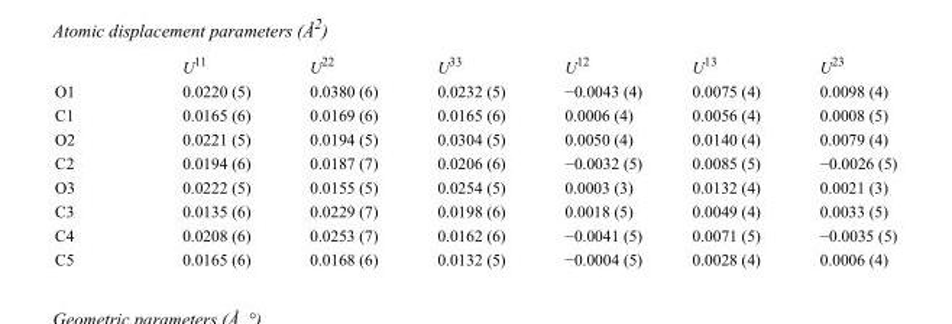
<table><thead><tr><td></td><td>U<sup>11</sup></td><td>U<sup>22</sup></td><td>U<sup>33</sup></td><td>U<sup>12</sup></td><td>U<sup>13</sup></td><td>U<sup>23</sup></td></tr></thead><tbody><tr><td>O1</td><td>0.0220 (5)</td><td>0.0380 (6)</td><td>0.0232 (5)</td><td>−0.0043 (4)</td><td>0.0075 (4)</td><td>0.0098 (4)</td></tr><tr><td>C1</td><td>0.0165 (6)</td><td>0.0169 (6)</td><td>0.0165 (6)</td><td>0.0006 (4)</td><td>0.0056 (4)</td><td>0.0008 (5)</td></tr><tr><td>O2</td><td>0.0221 (5)</td><td>0.0194 (5)</td><td>0.0304 (5)</td><td>0.0050 (4)</td><td>0.0140 (4)</td><td>0.0079 (4)</td></tr><tr><td>C2</td><td>0.0194 (6)</td><td>0.0187 (7)</td><td>0.0206 (6)</td><td>−0.0032 (5)</td><td>0.0085 (5)</td><td>−0.0026 (5)</td></tr><tr><td>O3</td><td>0.0222 (5)</td><td>0.0155 (5)</td><td>0.0254 (5)</td><td>0.0003 (3)</td><td>0.0132 (4)</td><td>0.0021 (3)</td></tr><tr><td>C3</td><td>0.0135 (6)</td><td>0.0229 (7)</td><td>0.0198 (6)</td><td>0.0018 (5)</td><td>0.0049 (4)</td><td>0.0033 (5)</td></tr><tr><td>C4</td><td>0.0208 (6)</td><td>0.0253 (7)</td><td>0.0162 (6)</td><td>−0.0041 (5)</td><td>0.0071 (5)</td><td>−0.0035 (5)</td></tr><tr><td>C5</td><td>0.0165 (6)</td><td>0.0168 (6)</td><td>0.0132 (5)</td><td>−0.0004 (5)</td><td>0.0028 (4)</td><td>0.0006 (4)</td></tr></tbody></table>